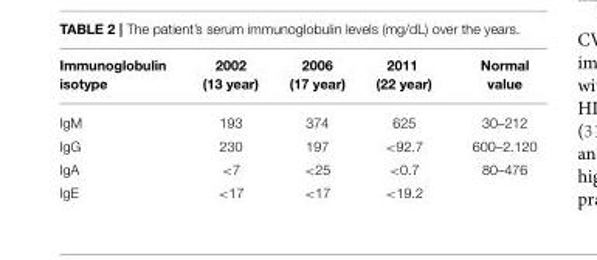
<table><thead><tr><td>Immunoglobulin isotype</td><td>2002 (13 year)</td><td>2006 (17 year)</td><td>2011 (22 year)</td><td>Normal value</td></tr></thead><tbody><tr><td>IgM</td><td>193</td><td>374</td><td>625</td><td>30–212</td></tr><tr><td>IgG</td><td>230</td><td>197</td><td>&lt;92.7</td><td>600–2.120</td></tr><tr><td>IgA</td><td>&lt;7</td><td>&lt;25</td><td>&lt;0.7</td><td>80–476</td></tr><tr><td>IgE</td><td>&lt;17</td><td>&lt;17</td><td>&lt;19.2</td><td></td></tr></tbody></table>